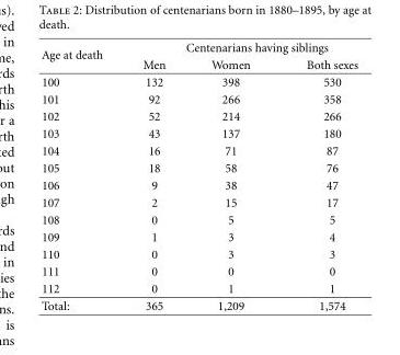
<table><thead><tr><td rowspan="2">Age at death</td><td colspan="3">Centenarians having siblings</td></tr><tr><td>Men</td><td>Women</td><td>Both sexes</td></tr></thead><tbody><tr><td>100</td><td>132</td><td>398</td><td>530</td></tr><tr><td>101</td><td>92</td><td>266</td><td>358</td></tr><tr><td>102</td><td>52</td><td>214</td><td>266</td></tr><tr><td>103</td><td>43</td><td>137</td><td>180</td></tr><tr><td>104</td><td>16</td><td>71</td><td>87</td></tr><tr><td>105</td><td>18</td><td>58</td><td>76</td></tr><tr><td>106</td><td>9</td><td>38</td><td>47</td></tr><tr><td>107</td><td>2</td><td>15</td><td>17</td></tr><tr><td>108</td><td>0</td><td>5</td><td>5</td></tr><tr><td>109</td><td>1</td><td>3</td><td>4</td></tr><tr><td>110</td><td>0</td><td>3</td><td>3</td></tr><tr><td>111</td><td>0</td><td>0</td><td>0</td></tr><tr><td>112</td><td>0</td><td>1</td><td>1</td></tr><tr><td>Total:</td><td>365</td><td>1,209</td><td>1,574</td></tr></tbody></table>